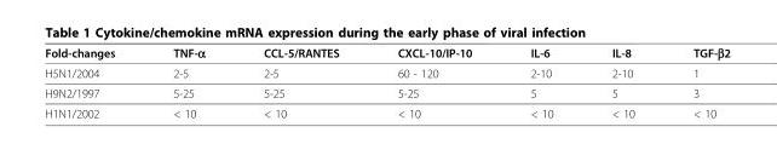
<table><thead><tr><td>Fold-changes</td><td>TNF-α</td><td>CCL-5/RANTES</td><td>CXCL-10/IP-10</td><td>IL-6</td><td>IL-8</td><td>TGF-β2</td></tr></thead><tbody><tr><td>H5N1/2004</td><td>2-5</td><td>2-5</td><td>60 - 120</td><td>2-10</td><td>2-10</td><td>1</td></tr><tr><td>H9N2/1997</td><td>5-25</td><td>5-25</td><td>5-25</td><td>5</td><td>5</td><td>3</td></tr><tr><td>H1N1/2002</td><td>&lt; 10</td><td>&lt; 10</td><td>&lt; 10</td><td>&lt; 10</td><td>&lt; 10</td><td>&lt; 10</td></tr></tbody></table>